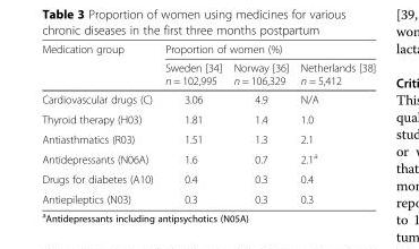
<table><thead><tr><td rowspan="2">Medication group</td><td colspan="3">Proportion of women (%)</td></tr><tr><td>Sweden [34] n = 102,995</td><td>Norway [36] n = 106,329</td><td>Netherlands [38] n = 5,412</td></tr></thead><tbody><tr><td>Cardiovascular drugs (C)</td><td>3.06</td><td>4.9</td><td>N/A</td></tr><tr><td>Thyroid therapy (H03)</td><td>1.81</td><td>1.4</td><td>1.0</td></tr><tr><td>Antiasthmatics (R03)</td><td>1.51</td><td>1.3</td><td>2.1</td></tr><tr><td>Antidepressants (N06A)</td><td>1.6</td><td>0.7</td><td>2.1<sup>a</sup></td></tr><tr><td>Drugs for diabetes (A10)</td><td>0.4</td><td>0.3</td><td>0.4</td></tr><tr><td>Antiepileptics (N03)</td><td>0.3</td><td>0.3</td><td>0.3</td></tr></tbody></table>